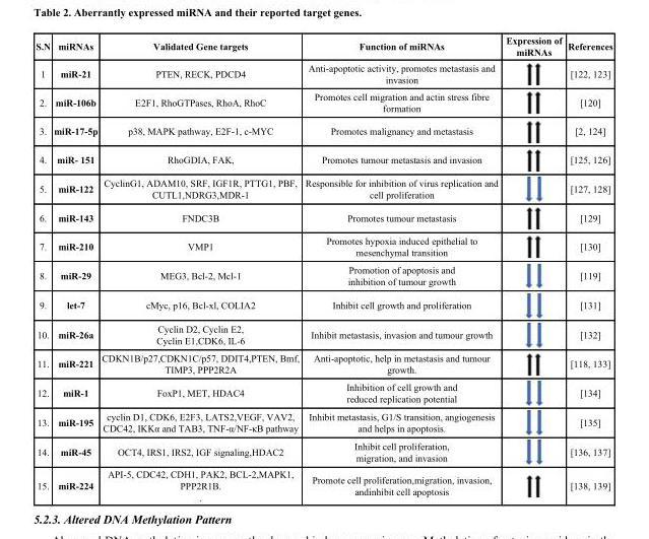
<table><thead><tr><td>S.N</td><td>miRNAs</td><td>Validated Gene targets</td><td>Function of miRNAs</td><td>Expression of miRNAs</td><td>References</td></tr></thead><tbody><tr><td>1</td><td>miR-21</td><td>PTEN, RECK, PDCD4</td><td>Anti-apoptotic activity, promotes metastasis and invasion</td><td></td><td>[122, 123]</td></tr><tr><td>2.</td><td>miR-106b</td><td>E2F1, RhoGTPases, RhoA, RhoC</td><td>Promotes cell migration and actin stress fibre formation</td><td></td><td>[120]</td></tr><tr><td>3.</td><td>miR-17-5p</td><td>p38, MAPK pathway, E2F-1, c-MYC</td><td>Promotes malignancy and metastasis</td><td></td><td>[2, 124]</td></tr><tr><td>4.</td><td>miR- 151</td><td>RhoGDIA, FAK,</td><td>Promotes tumour metastasis and invasion</td><td></td><td>[125, 126]</td></tr><tr><td>5.</td><td>miR-122</td><td>CyclinG1, ADAM10, SRF, IGF1R, PTTG1, PBF, CUTL1,NDRG3,MDR-1</td><td>Responsible for inhibition of virus replication and cell proliferation</td><td></td><td>[127, 128]</td></tr><tr><td>6.</td><td>miR-143</td><td>FNDC3B</td><td>Promotes tumour metastasis</td><td></td><td>[129]</td></tr><tr><td>7.</td><td>miR-210</td><td>VMP1</td><td>Promotes hypoxia induced epithelial to mesenchymal transition</td><td></td><td>[130]</td></tr><tr><td>8.</td><td>miR-29</td><td>MEG3, Bcl-2, Mcl-1</td><td>Promotion of apoptosis and inhibition of tumour growth</td><td></td><td>[119]</td></tr><tr><td>9.</td><td>let-7</td><td>cMyc, p16, Bcl-xl, COLIA2</td><td>Inhibit cell growth and proliferation</td><td></td><td>[131]</td></tr><tr><td>10.</td><td>miR-26a</td><td>Cyclin D2, Cyclin E2, Cyclin E1,CDK6, IL-6</td><td>Inhibit metastasis, invasion and tumour growth</td><td></td><td>[132]</td></tr><tr><td>11.</td><td>miR-221</td><td>CDKN1B/p27,CDKN1C/p57, DDIT4,PTEN, Bmf, TIMP3, PPP2R2A</td><td>Anti-apoptotic, help in metastasis and tumour growth.</td><td></td><td>[118, 133]</td></tr><tr><td>12.</td><td>miR-1</td><td>FoxP1, MET, HDAC4</td><td>Inhibition of cell growth and reduced replication potential</td><td></td><td>[134]</td></tr><tr><td>13.</td><td>miR-195</td><td>cyclin D1, CDK6, E2F3, LATS2,VEGF, VAV2, CDC42, IKKα and TAB3, TNF-α/NF-κB pathway</td><td>Inhibit metastasis, G1/S transition, angiogenesis and helps in apoptosis.</td><td></td><td>[135]</td></tr><tr><td>14.</td><td>miR-45</td><td>OCT4, IRS1, IRS2, IGF signaling,HDAC2</td><td>Inhibit cell proliferation, migration, and invasion</td><td></td><td>[136, 137]</td></tr><tr><td>15.</td><td>miR-224</td><td>API-5, CDC42, CDH1, PAK2, BCL-2,MAPK1, PPP2R1B. .</td><td>Promote cell proliferation,migration, invasion, andinhibit cell apoptosis</td><td></td><td>[138, 139]</td></tr></tbody></table>